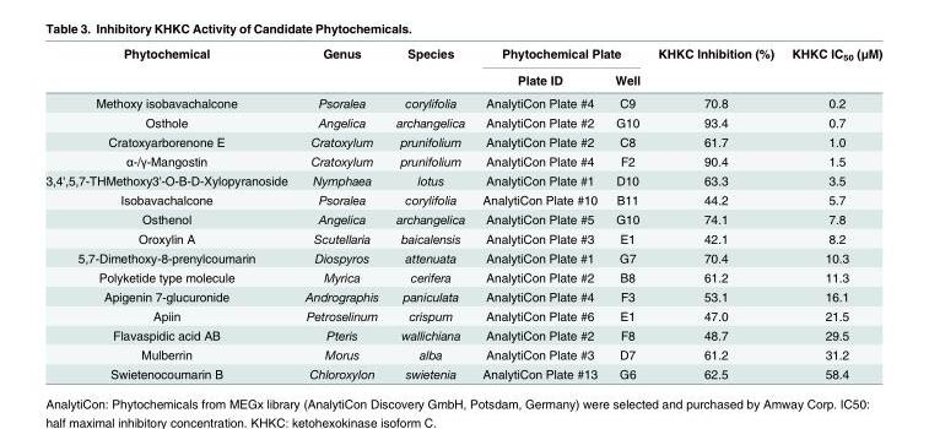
<table><thead><tr><td rowspan="2">Phytochemical</td><td rowspan="2">Genus</td><td rowspan="2">Species</td><td colspan="2">Phytochemical Plate</td><td rowspan="2">KHKC Inhibition (%)</td><td rowspan="2">KHKC IC<sub>50</sub> (μM)</td></tr><tr><td>Plate ID</td><td>Well</td></tr></thead><tbody><tr><td>Methoxy isobavachalcone</td><td>Psoralea</td><td>corylifolia</td><td>AnalytiCon Plate #4</td><td>C9</td><td>70.8</td><td>0.2</td></tr><tr><td>Osthole</td><td>Angelica</td><td>archangelica</td><td>AnalytiCon Plate #2</td><td>G10</td><td>93.4</td><td>0.7</td></tr><tr><td>Cratoxyarborenone E</td><td>Cratoxylum</td><td>prunifolium</td><td>AnalytiCon Plate #2</td><td>C8</td><td>61.7</td><td>1.0</td></tr><tr><td>α-/γ-Mangostin</td><td>Cratoxylum</td><td>prunifolium</td><td>AnalytiCon Plate #4</td><td>F2</td><td>90.4</td><td>1.5</td></tr><tr><td>3,4&#x27;,5,7-THMethoxy3&#x27;-O-B-D-Xylopyranoside</td><td>Nymphaea</td><td>lotus</td><td>AnalytiCon Plate #1</td><td>D10</td><td>63.3</td><td>3.5</td></tr><tr><td>Isobavachalcone</td><td>Psoralea</td><td>corylifolia</td><td>AnalytiCon Plate #10</td><td>B11</td><td>44.2</td><td>5.7</td></tr><tr><td>Osthenol</td><td>Angelica</td><td>archangelica</td><td>AnalytiCon Plate #5</td><td>G10</td><td>74.1</td><td>7.8</td></tr><tr><td>Oroxylin A</td><td>Scutellaria</td><td>baicalensis</td><td>AnalytiCon Plate #3</td><td>E1</td><td>42.1</td><td>8.2</td></tr><tr><td>5,7-Dimethoxy-8-prenylcoumarin</td><td>Diospyros</td><td>attenuata</td><td>AnalytiCon Plate #1</td><td>G7</td><td>70.4</td><td>10.3</td></tr><tr><td>Polyketide type molecule</td><td>Myrica</td><td>cerifera</td><td>AnalytiCon Plate #2</td><td>B8</td><td>61.2</td><td>11.3</td></tr><tr><td>Apigenin 7-glucuronide</td><td>Andrographis</td><td>paniculata</td><td>AnalytiCon Plate #4</td><td>F3</td><td>53.1</td><td>16.1</td></tr><tr><td>Apiin</td><td>Petroselinum</td><td>crispum</td><td>AnalytiCon Plate #6</td><td>E1</td><td>47.0</td><td>21.5</td></tr><tr><td>Flavaspidic acid AB</td><td>Pteris</td><td>wallichiana</td><td>AnalytiCon Plate #2</td><td>F8</td><td>48.7</td><td>29.5</td></tr><tr><td>Mulberrin</td><td>Morus</td><td>alba</td><td>AnalytiCon Plate #3</td><td>D7</td><td>61.2</td><td>31.2</td></tr><tr><td>Swietenocoumarin B</td><td>Chloroxylon</td><td>swietenia</td><td>AnalytiCon Plate #13</td><td>G6</td><td>62.5</td><td>58.4</td></tr></tbody></table>